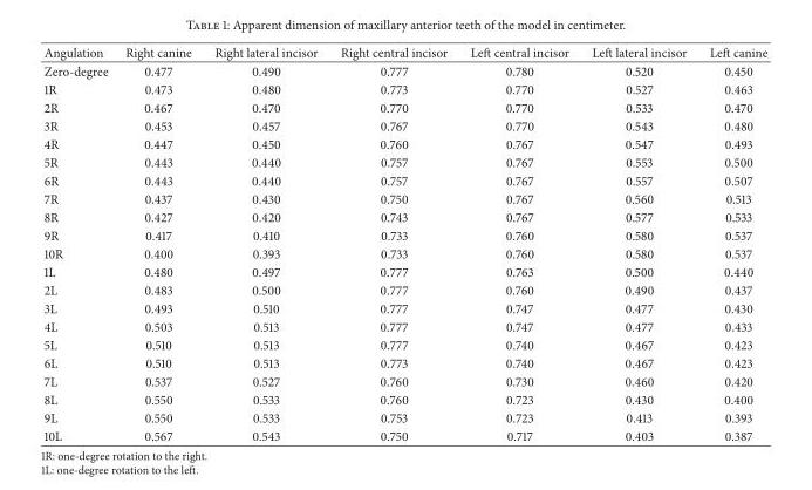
<table><thead><tr><td>Angulation</td><td>Right canine</td><td>Right lateral incisor</td><td>Right central incisor</td><td>Left central incisor</td><td>Left lateral incisor</td><td>Left canine</td></tr></thead><tbody><tr><td>Zero-degree</td><td>0.477</td><td>0.490</td><td>0.777</td><td>0.780</td><td>0.520</td><td>0.450</td></tr><tr><td>1R</td><td>0.473</td><td>0.480</td><td>0.773</td><td>0.770</td><td>0.527</td><td>0.463</td></tr><tr><td>2R</td><td>0.467</td><td>0.470</td><td>0.770</td><td>0.770</td><td>0.533</td><td>0.470</td></tr><tr><td>3R</td><td>0.453</td><td>0.457</td><td>0.767</td><td>0.770</td><td>0.543</td><td>0.480</td></tr><tr><td>4R</td><td>0.447</td><td>0.450</td><td>0.760</td><td>0.767</td><td>0.547</td><td>0.493</td></tr><tr><td>5R</td><td>0.443</td><td>0.440</td><td>0.757</td><td>0.767</td><td>0.553</td><td>0.500</td></tr><tr><td>6R</td><td>0.443</td><td>0.440</td><td>0.757</td><td>0.767</td><td>0.557</td><td>0.507</td></tr><tr><td>7R</td><td>0.437</td><td>0.430</td><td>0.750</td><td>0.767</td><td>0.560</td><td>0.513</td></tr><tr><td>8R</td><td>0.427</td><td>0.420</td><td>0.743</td><td>0.767</td><td>0.577</td><td>0.533</td></tr><tr><td>9R</td><td>0.417</td><td>0.410</td><td>0.733</td><td>0.760</td><td>0.580</td><td>0.537</td></tr><tr><td>10R</td><td>0.400</td><td>0.393</td><td>0.733</td><td>0.760</td><td>0.580</td><td>0.537</td></tr><tr><td>1L</td><td>0.480</td><td>0.497</td><td>0.777</td><td>0.763</td><td>0.500</td><td>0.440</td></tr><tr><td>2L</td><td>0.483</td><td>0.500</td><td>0.777</td><td>0.760</td><td>0.490</td><td>0.437</td></tr><tr><td>3L</td><td>0.493</td><td>0.510</td><td>0.777</td><td>0.747</td><td>0.477</td><td>0.430</td></tr><tr><td>4L</td><td>0.503</td><td>0.513</td><td>0.777</td><td>0.747</td><td>0.477</td><td>0.433</td></tr><tr><td>5L</td><td>0.510</td><td>0.513</td><td>0.777</td><td>0.740</td><td>0.467</td><td>0.423</td></tr><tr><td>6L</td><td>0.510</td><td>0.513</td><td>0.773</td><td>0.740</td><td>0.467</td><td>0.423</td></tr><tr><td>7L</td><td>0.537</td><td>0.527</td><td>0.760</td><td>0.730</td><td>0.460</td><td>0.420</td></tr><tr><td>8L</td><td>0.550</td><td>0.533</td><td>0.760</td><td>0.723</td><td>0.430</td><td>0.400</td></tr><tr><td>9L</td><td>0.550</td><td>0.533</td><td>0.753</td><td>0.723</td><td>0.413</td><td>0.393</td></tr><tr><td>10L</td><td>0.567</td><td>0.543</td><td>0.750</td><td>0.717</td><td>0.403</td><td>0.387</td></tr></tbody></table>